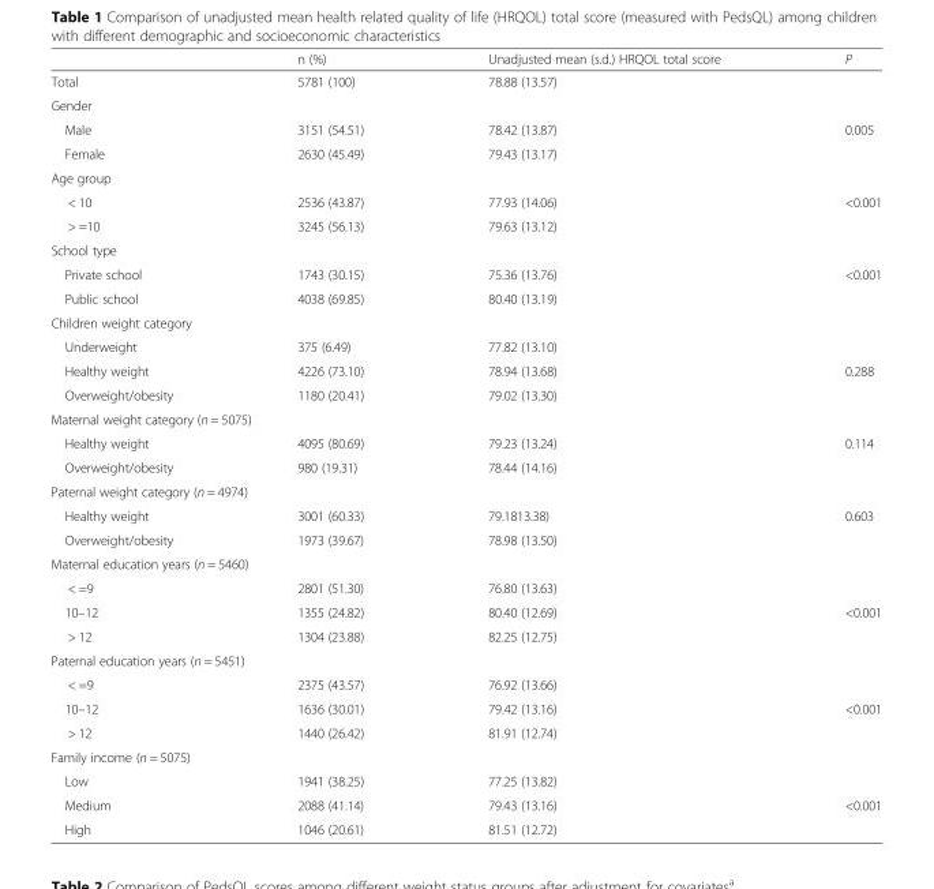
<table><thead><tr><td></td><td>n (%)</td><td>Unadjusted mean (s.d.) HRQOL total score</td><td>P</td></tr></thead><tbody><tr><td>Total</td><td>5781 (100)</td><td>78.88 (13.57)</td><td></td></tr><tr><td colspan="4">Gender</td></tr><tr><td>Male</td><td>3151 (54.51)</td><td>78.42 (13.87)</td><td>0.005</td></tr><tr><td>Female</td><td>2630 (45.49)</td><td>79.43 (13.17)</td><td></td></tr><tr><td colspan="4">Age group</td></tr><tr><td>&lt; 10</td><td>2536 (43.87)</td><td>77.93 (14.06)</td><td>&lt;0.001</td></tr><tr><td>&gt; =10</td><td>3245 (56.13)</td><td>79.63 (13.12)</td><td></td></tr><tr><td colspan="4">School type</td></tr><tr><td>Private school</td><td>1743 (30.15)</td><td>75.36 (13.76)</td><td>&lt;0.001</td></tr><tr><td>Public school</td><td>4038 (69.85)</td><td>80.40 (13.19)</td><td></td></tr><tr><td colspan="4">Children weight category</td></tr><tr><td>Underweight</td><td>375 (6.49)</td><td>77.82 (13.10)</td><td></td></tr><tr><td>Healthy weight</td><td>4226 (73.10)</td><td>78.94 (13.68)</td><td>0.288</td></tr><tr><td>Overweight/obesity</td><td>1180 (20.41)</td><td>79.02 (13.30)</td><td></td></tr><tr><td colspan="4">Maternal weight category (n = 5075)</td></tr><tr><td>Healthy weight</td><td>4095 (80.69)</td><td>79.23 (13.24)</td><td>0.114</td></tr><tr><td>Overweight/obesity</td><td>980 (19.31)</td><td>78.44 (14.16)</td><td></td></tr><tr><td colspan="4">Paternal weight category (n = 4974)</td></tr><tr><td>Healthy weight</td><td>3001 (60.33)</td><td>79.1813.38)</td><td>0.603</td></tr><tr><td>Overweight/obesity</td><td>1973 (39.67)</td><td>78.98 (13.50)</td><td></td></tr><tr><td colspan="4">Maternal education years (n = 5460)</td></tr><tr><td>&lt; =9</td><td>2801 (51.30)</td><td>76.80 (13.63)</td><td></td></tr><tr><td>10–12</td><td>1355 (24.82)</td><td>80.40 (12.69)</td><td>&lt;0.001</td></tr><tr><td>&gt; 12</td><td>1304 (23.88)</td><td>82.25 (12.75)</td><td></td></tr><tr><td colspan="4">Paternal education years (n = 5451)</td></tr><tr><td>&lt; =9</td><td>2375 (43.57)</td><td>76.92 (13.66)</td><td></td></tr><tr><td>10–12</td><td>1636 (30.01)</td><td>79.42 (13.16)</td><td>&lt;0.001</td></tr><tr><td>&gt; 12</td><td>1440 (26.42)</td><td>81.91 (12.74)</td><td></td></tr><tr><td colspan="4">Family income (n = 5075)</td></tr><tr><td>Low</td><td>1941 (38.25)</td><td>77.25 (13.82)</td><td></td></tr><tr><td>Medium</td><td>2088 (41.14)</td><td>79.43 (13.16)</td><td>&lt;0.001</td></tr><tr><td>High</td><td>1046 (20.61)</td><td>81.51 (12.72)</td><td></td></tr></tbody></table>